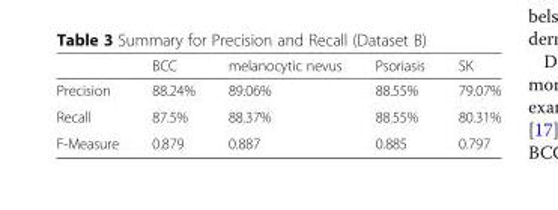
<table><thead><tr><td></td><td>BCC</td><td>melanocytic nevus</td><td>Psoriasis</td><td>SK</td></tr></thead><tbody><tr><td>Precision</td><td>88.24%</td><td>89.06%</td><td>88.55%</td><td>79.07%</td></tr><tr><td>Recall</td><td>87.5%</td><td>88.37%</td><td>88.55%</td><td>80.31%</td></tr><tr><td>F-Measure</td><td>0.879</td><td>0.887</td><td>0.885</td><td>0.797</td></tr></tbody></table>